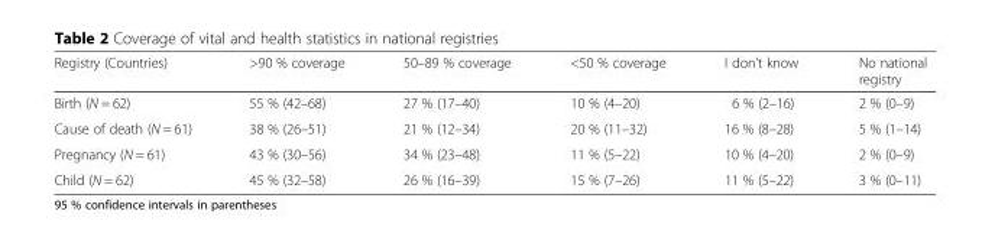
<table><thead><tr><td>Registry (Countries)</td><td>&gt;90 % coverage</td><td>50–89 % coverage</td><td>&lt;50 % coverage</td><td>I don’t know</td><td>No national registry</td></tr></thead><tbody><tr><td>Birth (N = 62)</td><td>55 % (42–68)</td><td>27 % (17–40)</td><td>10 % (4–20)</td><td>6 % (2–16)</td><td>2 % (0–9)</td></tr><tr><td>Cause of death (N = 61)</td><td>38 % (26–51)</td><td>21 % (12–34)</td><td>20 % (11–32)</td><td>16 % (8–28)</td><td>5 % (1–14)</td></tr><tr><td>Pregnancy (N = 61)</td><td>43 % (30–56)</td><td>34 % (23–48)</td><td>11 % (5–22)</td><td>10 % (4–20)</td><td>2 % (0–9)</td></tr><tr><td>Child (N = 62)</td><td>45 % (32–58)</td><td>26 % (16–39)</td><td>15 % (7–26)</td><td>11 % (5–22)</td><td>3 % (0–11)</td></tr></tbody></table>